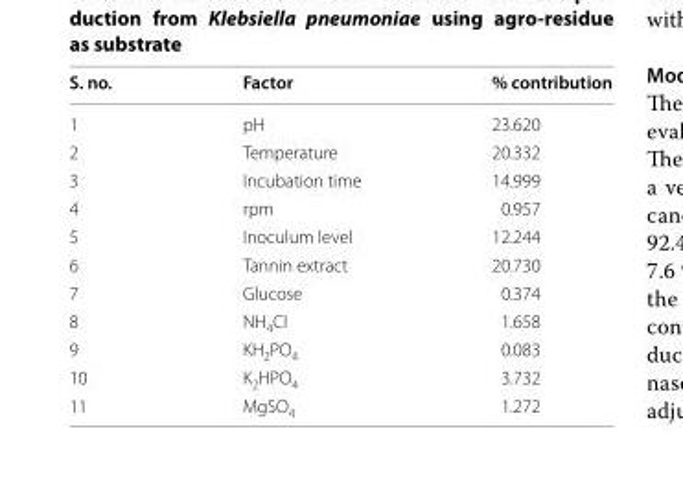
<table><thead><tr><td>S. no.</td><td>Factor</td><td>% contribution</td></tr></thead><tbody><tr><td>1</td><td>pH</td><td>23.620</td></tr><tr><td>2</td><td>Temperature</td><td>20.332</td></tr><tr><td>3</td><td>Incubation time</td><td>14.999</td></tr><tr><td>4</td><td>rpm</td><td>0.957</td></tr><tr><td>5</td><td>Inoculum level</td><td>12.244</td></tr><tr><td>6</td><td>Tannin extract</td><td>20.730</td></tr><tr><td>7</td><td>Glucose</td><td>0.374</td></tr><tr><td>8</td><td>NH<sub>4</sub>Cl</td><td>1.658</td></tr><tr><td>9</td><td>KH<sub>2</sub>PO<sub>4</sub></td><td>0.083</td></tr><tr><td>10</td><td>K<sub>2</sub>HPO<sub>4</sub></td><td>3.732</td></tr><tr><td>11</td><td>MgSO<sub>4</sub></td><td>1.272</td></tr></tbody></table>